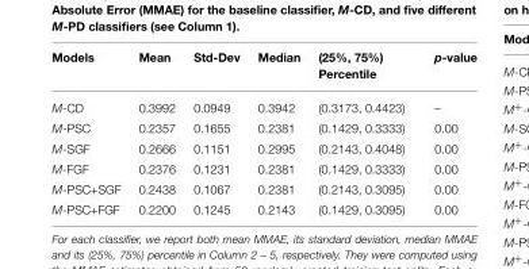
<table><thead><tr><td>Models</td><td>Mean</td><td>Std-Dev</td><td>Median</td><td>(25%, 75%) Percentile</td><td>p-value</td></tr></thead><tbody><tr><td>M-CD</td><td>0.3992</td><td>0.0949</td><td>0.3942</td><td>(0.3173, 0.4423)</td><td>–</td></tr><tr><td>M-PSC</td><td>0.2357</td><td>0.1655</td><td>0.2381</td><td>(0.1429, 0.3333)</td><td>0.00</td></tr><tr><td>M-SGF</td><td>0.2666</td><td>0.1151</td><td>0.2995</td><td>(0.2143, 0.4048)</td><td>0.00</td></tr><tr><td>M-FGF</td><td>0.2376</td><td>0.1231</td><td>0.2381</td><td>(0.1429, 0.3333)</td><td>0.00</td></tr><tr><td>M-PSC+SGF</td><td>0.2438</td><td>0.1067</td><td>0.2381</td><td>(0.2143, 0.3095)</td><td>0.00</td></tr><tr><td>M-PSC+FGF</td><td>0.2200</td><td>0.1245</td><td>0.2143</td><td>(0.1429, 0.3095)</td><td>0.00</td></tr></tbody></table>